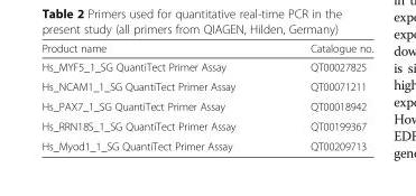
<table><thead><tr><td>Product name</td><td>Catalogue no.</td></tr></thead><tbody><tr><td>Hs_MYF5_1_SG QuantiTect Primer Assay</td><td>QT00027825</td></tr><tr><td>Hs_NCAM1_1_SG QuantiTect Primer Assay</td><td>QT00071211</td></tr><tr><td>Hs_PAX7_1_SG QuantiTect Primer Assay</td><td>QT00018942</td></tr><tr><td>Hs_RRN18S_1_SG QuantiTect Primer Assay</td><td>QT00199367</td></tr><tr><td>Hs_Myod1_1_SG QuantiTect Primer Assay</td><td>QT00209713</td></tr></tbody></table>